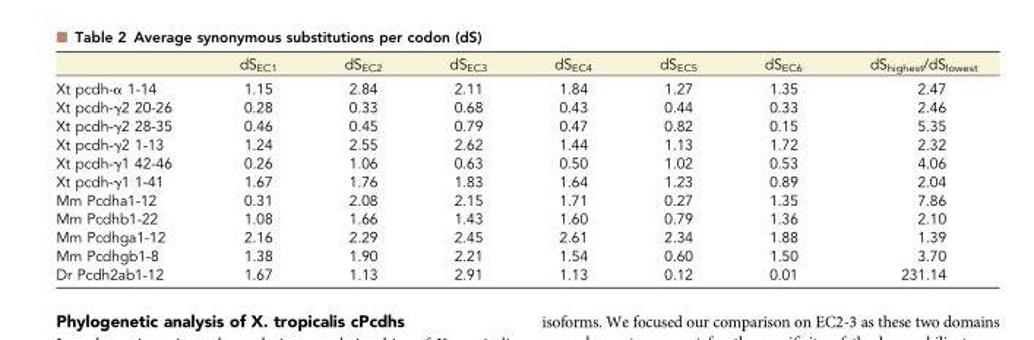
<table><thead><tr><td></td><td>dS<sub>EC1</sub></td><td>dS<sub>EC2</sub></td><td>dS<sub>EC3</sub></td><td>dS<sub>EC4</sub></td><td>dS<sub>EC5</sub></td><td>dS<sub>EC6</sub></td><td>dS<sub>highest</sub>/dS<sub>lowest</sub></td></tr></thead><tbody><tr><td>Xt pcdh-α 1-14</td><td>1.15</td><td>2.84</td><td>2.11</td><td>1.84</td><td>1.27</td><td>1.35</td><td>2.47</td></tr><tr><td>Xt pcdh-γ2 20-26</td><td>0.28</td><td>0.33</td><td>0.68</td><td>0.43</td><td>0.44</td><td>0.33</td><td>2.46</td></tr><tr><td>Xt pcdh-γ2 28-35</td><td>0.46</td><td>0.45</td><td>0.79</td><td>0.47</td><td>0.82</td><td>0.15</td><td>5.35</td></tr><tr><td>Xt pcdh-γ2 1-13</td><td>1.24</td><td>2.55</td><td>2.62</td><td>1.44</td><td>1.13</td><td>1.72</td><td>2.32</td></tr><tr><td>Xt pcdh-γ1 42-46</td><td>0.26</td><td>1.06</td><td>0.63</td><td>0.50</td><td>1.02</td><td>0.53</td><td>4.06</td></tr><tr><td>Xt pcdh-γ1 1-41</td><td>1.67</td><td>1.76</td><td>1.83</td><td>1.64</td><td>1.23</td><td>0.89</td><td>2.04</td></tr><tr><td>Mm Pcdha1-12</td><td>0.31</td><td>2.08</td><td>2.15</td><td>1.71</td><td>0.27</td><td>1.35</td><td>7.86</td></tr><tr><td>Mm Pcdhb1-22</td><td>1.08</td><td>1.66</td><td>1.43</td><td>1.60</td><td>0.79</td><td>1.36</td><td>2.10</td></tr><tr><td>Mm Pcdhga1-12</td><td>2.16</td><td>2.29</td><td>2.45</td><td>2.61</td><td>2.34</td><td>1.88</td><td>1.39</td></tr><tr><td>Mm Pcdhgb1-8</td><td>1.38</td><td>1.90</td><td>2.21</td><td>1.54</td><td>0.60</td><td>1.50</td><td>3.70</td></tr><tr><td>Dr Pcdh2ab1-12</td><td>1.67</td><td>1.13</td><td>2.91</td><td>1.13</td><td>0.12</td><td>0.01</td><td>231.14</td></tr></tbody></table>